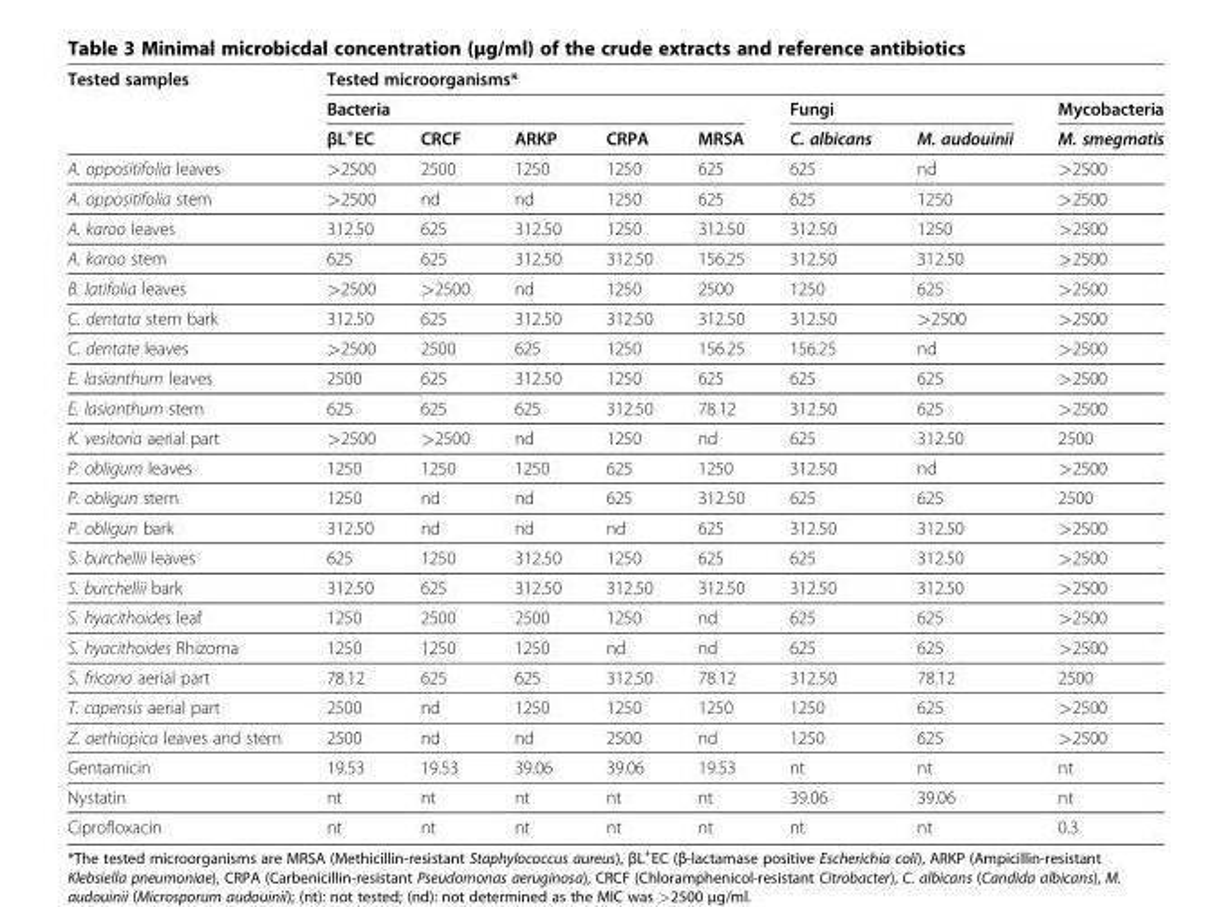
<table><thead><tr><td rowspan="3">Tested samples</td><td colspan="8">Tested microorganisms*</td></tr><tr><td colspan="5">Bacteria</td><td colspan="2">Fungi</td><td rowspan="2">Mycobacteria M. smegmatis</td></tr><tr><td>βL<sup>+</sup>EC</td><td>CRCF</td><td>ARKP</td><td>CRPA</td><td>MRSA</td><td>C. albicans</td><td>M. audouinii</td></tr></thead><tbody><tr><td>A. oppositifolia leaves</td><td>&gt;2500</td><td>2500</td><td>1250</td><td>1250</td><td>625</td><td>625</td><td>nd</td><td>&gt;2500</td></tr><tr><td>A. oppositifolia stem</td><td>&gt;2500</td><td>nd</td><td>nd</td><td>1250</td><td>625</td><td>625</td><td>1250</td><td>&gt;2500</td></tr><tr><td>A. karoo leaves</td><td>312.50</td><td>625</td><td>312.50</td><td>1250</td><td>312.50</td><td>312.50</td><td>1250</td><td>&gt;2500</td></tr><tr><td>A. karoo stem</td><td>625</td><td>625</td><td>312.50</td><td>312.50</td><td>156.25</td><td>312.50</td><td>312.50</td><td>&gt;2500</td></tr><tr><td>B. latifolia leaves</td><td>&gt;2500</td><td>&gt;2500</td><td>nd</td><td>1250</td><td>2500</td><td>1250</td><td>625</td><td>&gt;2500</td></tr><tr><td>C. dentata stem bark</td><td>312.50</td><td>625</td><td>312.50</td><td>312.50</td><td>312.50</td><td>312.50</td><td>&gt;2500</td><td>&gt;2500</td></tr><tr><td>C. dentate leaves</td><td>&gt;2500</td><td>2500</td><td>625</td><td>1250</td><td>156.25</td><td>156.25</td><td>nd</td><td>&gt;2500</td></tr><tr><td>E. lasianthum leaves</td><td>2500</td><td>625</td><td>312.50</td><td>1250</td><td>625</td><td>625</td><td>625</td><td>&gt;2500</td></tr><tr><td>E. lasianthum stem</td><td>625</td><td>625</td><td>625</td><td>312.50</td><td>78.12</td><td>312.50</td><td>625</td><td>&gt;2500</td></tr><tr><td>K. vesitoria aerial part</td><td>&gt;2500</td><td>&gt;2500</td><td>nd</td><td>1250</td><td>nd</td><td>625</td><td>312.50</td><td>2500</td></tr><tr><td>P. obligum leaves</td><td>1250</td><td>1250</td><td>1250</td><td>625</td><td>1250</td><td>312.50</td><td>nd</td><td>&gt;2500</td></tr><tr><td>P. obligun stem</td><td>1250</td><td>nd</td><td>nd</td><td>625</td><td>312.50</td><td>625</td><td>625</td><td>2500</td></tr><tr><td>P. obligun bark</td><td>312.50</td><td>nd</td><td>nd</td><td>nd</td><td>625</td><td>312.50</td><td>312.50</td><td>&gt;2500</td></tr><tr><td>S. burchellii leaves</td><td>625</td><td>1250</td><td>312.50</td><td>1250</td><td>625</td><td>625</td><td>312.50</td><td>&gt;2500</td></tr><tr><td>S. burchellii bark</td><td>312.50</td><td>625</td><td>312.50</td><td>312.50</td><td>312.50</td><td>312.50</td><td>312.50</td><td>&gt;2500</td></tr><tr><td>S. hyacithoides leaf</td><td>1250</td><td>2500</td><td>2500</td><td>1250</td><td>nd</td><td>625</td><td>625</td><td>&gt;2500</td></tr><tr><td>S. hyacithoides Rhizoma</td><td>1250</td><td>1250</td><td>1250</td><td>nd</td><td>nd</td><td>625</td><td>625</td><td>&gt;2500</td></tr><tr><td>S. fricana aerial part</td><td>78.12</td><td>625</td><td>625</td><td>312.50</td><td>78.12</td><td>312.50</td><td>78.12</td><td>2500</td></tr><tr><td>T. capensis aerial part</td><td>2500</td><td>nd</td><td>1250</td><td>1250</td><td>1250</td><td>1250</td><td>625</td><td>&gt;2500</td></tr><tr><td>Z. aethiopica leaves and stem</td><td>2500</td><td>nd</td><td>nd</td><td>2500</td><td>nd</td><td>1250</td><td>625</td><td>&gt;2500</td></tr><tr><td>Gentamicin</td><td>19.53</td><td>19.53</td><td>39.06</td><td>39.06</td><td>19.53</td><td>nt</td><td>nt</td><td>nt</td></tr><tr><td>Nystatin</td><td>nt</td><td>nt</td><td>nt</td><td>nt</td><td>nt</td><td>39.06</td><td>39.06</td><td>nt</td></tr><tr><td>Ciprofloxacin</td><td>nt</td><td>nt</td><td>nt</td><td>nt</td><td>nt</td><td>nt</td><td>nt</td><td>0.3</td></tr></tbody></table>